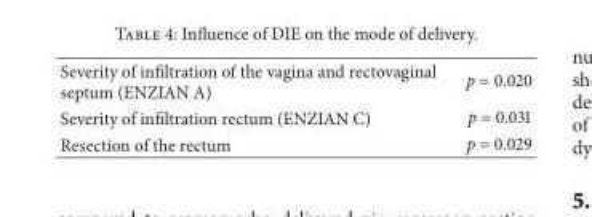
<table><tbody><tr><td>Severity of infiltration of the vagina and rectovaginal septum (ENZIAN A)</td><td>p = 0.020</td></tr><tr><td>Severity of infiltration rectum (ENZIAN C)</td><td>p = 0.031</td></tr><tr><td>Resection of the rectum</td><td>p = 0.029</td></tr></tbody></table>